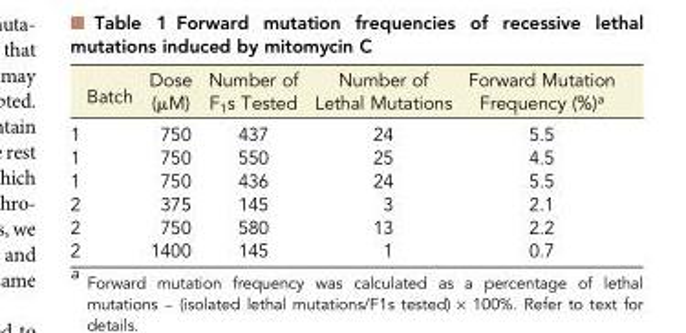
<table><thead><tr><td>Batch</td><td>Dose (µM)</td><td>Number of F<sub>1</sub>s Tested</td><td>Number of Lethal Mutations</td><td>Forward Mutation Frequency (%)<sup>a</sup></td></tr></thead><tbody><tr><td>1</td><td>750</td><td>437</td><td>24</td><td>5.5</td></tr><tr><td>1</td><td>750</td><td>550</td><td>25</td><td>4.5</td></tr><tr><td>1</td><td>750</td><td>436</td><td>24</td><td>5.5</td></tr><tr><td>2</td><td>375</td><td>145</td><td>3</td><td>2.1</td></tr><tr><td>2</td><td>750</td><td>580</td><td>13</td><td>2.2</td></tr><tr><td>2</td><td>1400</td><td>145</td><td>1</td><td>0.7</td></tr></tbody></table>